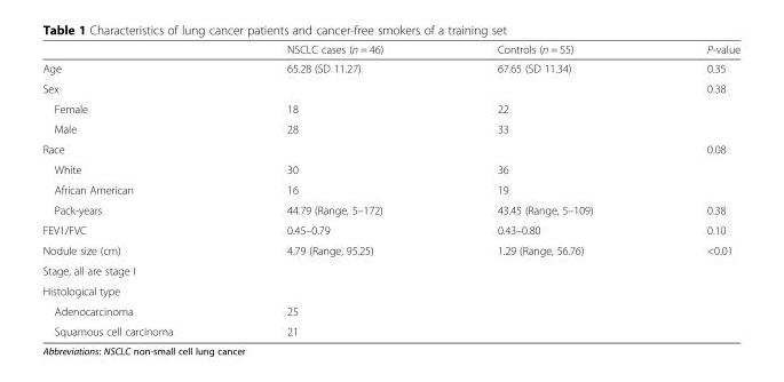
<table><thead><tr><td></td><td>NSCLC cases (n = 46)</td><td>Controls (n = 55)</td><td>P-value</td></tr></thead><tbody><tr><td>Age</td><td>65.28 (SD 11.27)</td><td>67.65 (SD 11.34)</td><td>0.35</td></tr><tr><td>Sex</td><td></td><td></td><td>0.38</td></tr><tr><td>Female</td><td>18</td><td>22</td><td></td></tr><tr><td>Male</td><td>28</td><td>33</td><td></td></tr><tr><td>Race</td><td></td><td></td><td>0.08</td></tr><tr><td>White</td><td>30</td><td>36</td><td></td></tr><tr><td>African American</td><td>16</td><td>19</td><td></td></tr><tr><td>Pack-years</td><td>44.79 (Range, 5–172)</td><td>43.45 (Range, 5–109)</td><td>0.38</td></tr><tr><td>FEV1/FVC</td><td>0.45–0.79</td><td>0.43–0.80</td><td>0.10</td></tr><tr><td>Nodule size (cm)</td><td>4.79 (Range, 95.25)</td><td>1.29 (Range, 56.76)</td><td>&lt;0.01</td></tr><tr><td colspan="4">Stage, all are stage I</td></tr><tr><td colspan="4">Histological type</td></tr><tr><td>Adenocarcinoma</td><td>25</td><td></td><td></td></tr><tr><td>Squamous cell carcinoma</td><td>21</td><td></td><td></td></tr></tbody></table>